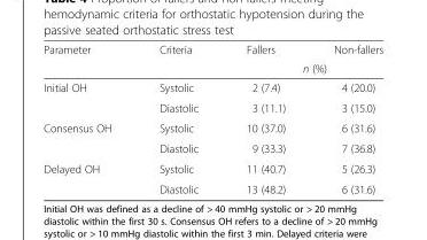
<table><thead><tr><td rowspan="2">Parameter</td><td rowspan="2">Criteria</td><td>Fallers</td><td>Non-fallers</td></tr><tr><td colspan="2">n (%)</td></tr></thead><tbody><tr><td rowspan="2">Initial OH</td><td>Systolic</td><td>2 (7.4)</td><td>4 (20.0)</td></tr><tr><td>Diastolic</td><td>3 (11.1)</td><td>3 (15.0)</td></tr><tr><td rowspan="2">Consensus OH</td><td>Systolic</td><td>10 (37.0)</td><td>6 (31.6)</td></tr><tr><td>Diastolic</td><td>9 (33.3)</td><td>7 (36.8)</td></tr><tr><td rowspan="2">Delayed OH</td><td>Systolic</td><td>11 (40.7)</td><td>5 (26.3)</td></tr><tr><td>Diastolic</td><td>13 (48.2)</td><td>6 (31.6)</td></tr></tbody></table>